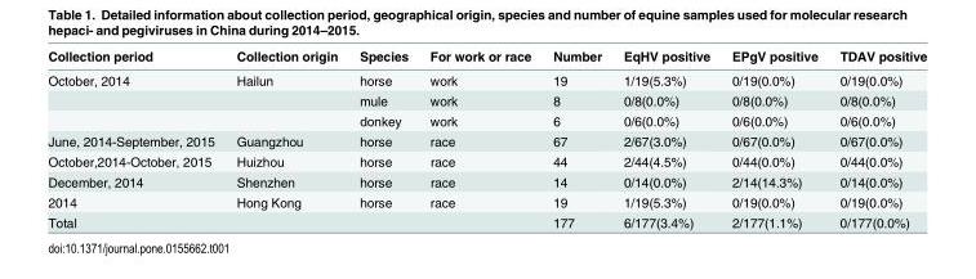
<table><thead><tr><td>Collection period</td><td>Collection origin</td><td>Species</td><td>For work or race</td><td>Number</td><td>EqHV positive</td><td>EPgV positive</td><td>TDAV positive</td></tr></thead><tbody><tr><td rowspan="3">October, 2014</td><td>Hailun</td><td>horse</td><td>work</td><td>19</td><td>1/19(5.3%)</td><td>0/19(0.0%)</td><td>0/19(0.0%)</td></tr><tr><td></td><td>mule</td><td>work</td><td>8</td><td>0/8(0.0%)</td><td>0/8(0.0%)</td><td>0/8(0.0%)</td></tr><tr><td></td><td>donkey</td><td>work</td><td>6</td><td>0/6(0.0%)</td><td>0/6(0.0%)</td><td>0/6(0.0%)</td></tr><tr><td>June, 2014-September, 2015</td><td>Guangzhou</td><td>horse</td><td>race</td><td>67</td><td>2/67(3.0%)</td><td>0/67(0.0%)</td><td>0/67(0.0%)</td></tr><tr><td>October,2014-October, 2015</td><td>Huizhou</td><td>horse</td><td>race</td><td>44</td><td>2/44(4.5%)</td><td>0/44(0.0%)</td><td>0/44(0.0%)</td></tr><tr><td>December, 2014</td><td>Shenzhen</td><td>horse</td><td>race</td><td>14</td><td>0/14(0.0%)</td><td>2/14(14.3%)</td><td>0/14(0.0%)</td></tr><tr><td>2014</td><td>Hong Kong</td><td>horse</td><td>race</td><td>19</td><td>1/19(5.3%)</td><td>0/19(0.0%)</td><td>0/19(0.0%)</td></tr><tr><td>Total</td><td></td><td></td><td></td><td>177</td><td>6/177(3.4%)</td><td>2/177(1.1%)</td><td>0/177(0.0%)</td></tr></tbody></table>